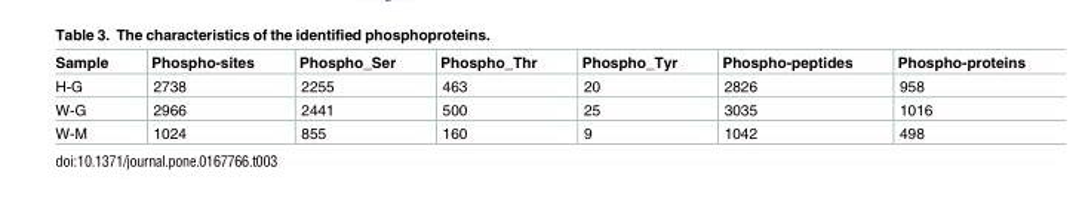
<table><thead><tr><td>Sample</td><td>Phospho-sites</td><td>Phospho_Ser</td><td>Phospho_Thr</td><td>Phospho_Tyr</td><td>Phospho-peptides</td><td>Phospho-proteins</td></tr></thead><tbody><tr><td>H-G</td><td>2738</td><td>2255</td><td>463</td><td>20</td><td>2826</td><td>958</td></tr><tr><td>W-G</td><td>2966</td><td>2441</td><td>500</td><td>25</td><td>3035</td><td>1016</td></tr><tr><td>W-M</td><td>1024</td><td>855</td><td>160</td><td>9</td><td>1042</td><td>498</td></tr></tbody></table>